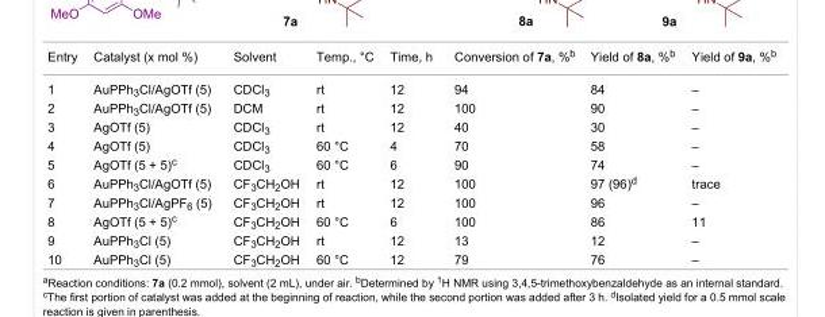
<table><tbody><tr><td>Entry</td><td>Catalyst (x mol %)</td><td>Solvent</td><td>Temp., °C</td><td>Time, h</td><td>Conversion of 7a, %<sup>b</sup></td><td>Yield of 8a, %<sup>b</sup></td><td>Yield of 9a, %<sup>b</sup></td></tr><tr><td>1</td><td>AuPPh<sub>3</sub>Cl/AgOTf (5)</td><td>CDCl<sub>3</sub></td><td>rt</td><td>12</td><td>94</td><td>84</td><td>–</td></tr><tr><td>2</td><td>AuPPh<sub>3</sub>Cl/AgOTf (5)</td><td>DCM</td><td>rt</td><td>12</td><td>100</td><td>90</td><td>–</td></tr><tr><td>3</td><td>AgOTf (5)</td><td>CDCl<sub>3</sub></td><td>rt</td><td>12</td><td>40</td><td>30</td><td>–</td></tr><tr><td>4</td><td>AgOTf (5)</td><td>CDCl<sub>3</sub></td><td>60 °C</td><td>4</td><td>70</td><td>58</td><td>–</td></tr><tr><td>5</td><td>AgOTf (5 + 5)<sup>c</sup></td><td>CDCl<sub>3</sub></td><td>60 °C</td><td>6</td><td>90</td><td>74</td><td>–</td></tr><tr><td>6</td><td>AuPPh<sub>3</sub>Cl/AgOTf (5)</td><td>CF<sub>3</sub>CH<sub>2</sub>OH</td><td>rt</td><td>12</td><td>100</td><td>97 (96)<sup>d</sup></td><td>trace</td></tr><tr><td>7</td><td>AuPPh<sub>3</sub>Cl/AgPF<sub>6</sub> (5)</td><td>CF<sub>3</sub>CH<sub>2</sub>OH</td><td>rt</td><td>12</td><td>100</td><td>96</td><td>–</td></tr><tr><td>8</td><td>AgOTf (5 + 5)<sup>c</sup></td><td>CF<sub>3</sub>CH<sub>2</sub>OH</td><td>60 °C</td><td>6</td><td>100</td><td>86</td><td>11</td></tr><tr><td>9</td><td>AuPPh<sub>3</sub>Cl (5)</td><td>CF<sub>3</sub>CH<sub>2</sub>OH</td><td>rt</td><td>12</td><td>13</td><td>12</td><td>–</td></tr><tr><td>10</td><td>AuPPh<sub>3</sub>Cl (5)</td><td>CF<sub>3</sub>CH<sub>2</sub>OH</td><td>60 °C</td><td>12</td><td>79</td><td>76</td><td>–</td></tr></tbody></table>